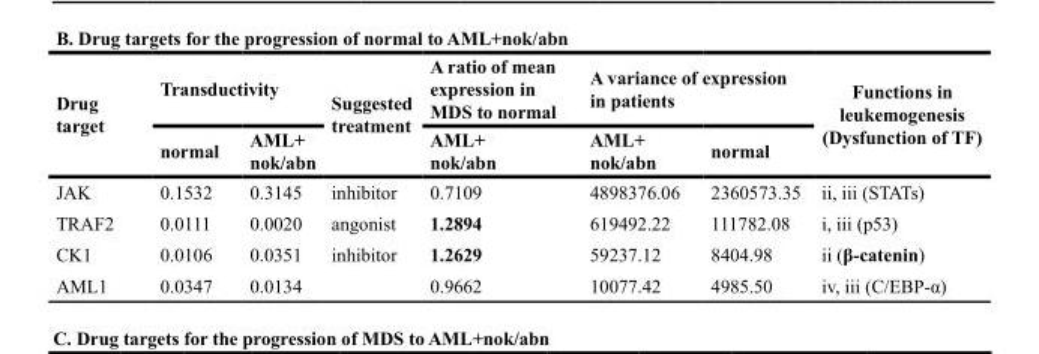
<table><thead><tr><td rowspan="2">Drug target</td><td colspan="2">Transductivity</td><td rowspan="2">Suggested treatment</td><td rowspan="2">A ratio of mean expression in MDS to normal AML+ nok/abn</td><td colspan="2">A variance of expression in patients</td><td rowspan="2">Functions in leukemogenesis (Dysfunction of TF)</td></tr><tr><td>normal</td><td>AML+ nok/abn</td><td>AML+ nok/abn</td><td>normal</td></tr></thead><tbody><tr><td>JAK</td><td>0.1532</td><td>0.3145</td><td>inhibitor</td><td>0.7109</td><td>4898376.06</td><td>2360573.35</td><td>ii, iii (STATs)</td></tr><tr><td>TRAF2</td><td>0.0111</td><td>0.0020</td><td>angonist</td><td>1.2894</td><td>619492.22</td><td>111782.08</td><td>i, iii (p53)</td></tr><tr><td>CK1</td><td>0.0106</td><td>0.0351</td><td>inhibitor</td><td>1.2629</td><td>59237.12</td><td>8404.98</td><td>ii (β-catenin)</td></tr><tr><td>AML1</td><td>0.0347</td><td>0.0134</td><td></td><td>0.9662</td><td>10077.42</td><td>4985.50</td><td>iv, iii (C/EBP-α)</td></tr></tbody></table>